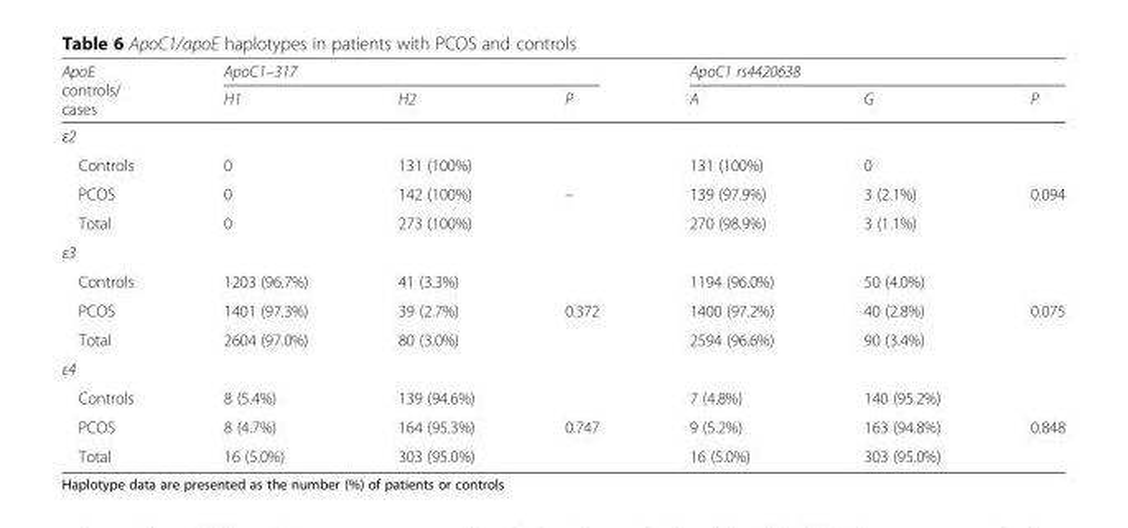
<table><thead><tr><td rowspan="2">ApoE controls/ cases</td><td colspan="3">ApoC1–317</td><td colspan="3">ApoC1 rs4420638</td></tr><tr><td>H1</td><td>H2</td><td>P</td><td>A</td><td>G</td><td>P</td></tr></thead><tbody><tr><td colspan="7">ε2</td></tr><tr><td>Controls</td><td>0</td><td>131 (100%)</td><td></td><td>131 (100%)</td><td>0</td><td></td></tr><tr><td>PCOS</td><td>0</td><td>142 (100%)</td><td>–</td><td>139 (97.9%)</td><td>3 (2.1%)</td><td>0.094</td></tr><tr><td>Total</td><td>0</td><td>273 (100%)</td><td></td><td>270 (98.9%)</td><td>3 (1.1%)</td><td></td></tr><tr><td colspan="7">ε3</td></tr><tr><td>Controls</td><td>1203 (96.7%)</td><td>41 (3.3%)</td><td></td><td>1194 (96.0%)</td><td>50 (4.0%)</td><td></td></tr><tr><td>PCOS</td><td>1401 (97.3%)</td><td>39 (2.7%)</td><td>0.372</td><td>1400 (97.2%)</td><td>40 (2.8%)</td><td>0.075</td></tr><tr><td>Total</td><td>2604 (97.0%)</td><td>80 (3.0%)</td><td></td><td>2594 (96.6%)</td><td>90 (3.4%)</td><td></td></tr><tr><td colspan="7">ε4</td></tr><tr><td>Controls</td><td>8 (5.4%)</td><td>139 (94.6%)</td><td></td><td>7 (4.8%)</td><td>140 (95.2%)</td><td></td></tr><tr><td>PCOS</td><td>8 (4.7%)</td><td>164 (95.3%)</td><td>0.747</td><td>9 (5.2%)</td><td>163 (94.8%)</td><td>0.848</td></tr><tr><td>Total</td><td>16 (5.0%)</td><td>303 (95.0%)</td><td></td><td>16 (5.0%)</td><td>303 (95.0%)</td><td></td></tr></tbody></table>